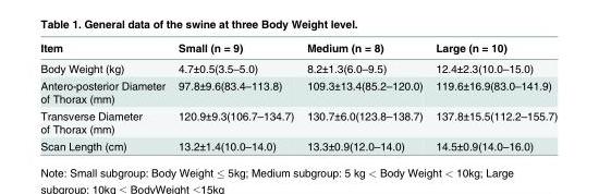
<table><thead><tr><td>Item</td><td>Small (n = 9)</td><td>Medium (n = 8)</td><td>Large (n = 10)</td></tr></thead><tbody><tr><td>Body Weight (kg)</td><td>4.7±0.5(3.5–5.0)</td><td>8.2±1.3(6.0–9.5)</td><td>12.4±2.3(10.0–15.0)</td></tr><tr><td>Antero-posterior Diameter of Thorax (mm)</td><td>97.8±9.6(83.4–113.8)</td><td>109.3±13.4(85.2–120.0)</td><td>119.6±16.9(83.0–141.9)</td></tr><tr><td>Transverse Diameter of Thorax (mm)</td><td>120.9±9.3(106.7–134.7)</td><td>130.7±6.0(123.8–138.7)</td><td>137.8±15.5(112.2–155.7)</td></tr><tr><td>Scan Length (cm)</td><td>13.2±1.4(10.0–14.0)</td><td>13.3±0.9(12.0–14.0)</td><td>14.5±0.9(14.0–16.0)</td></tr></tbody></table>